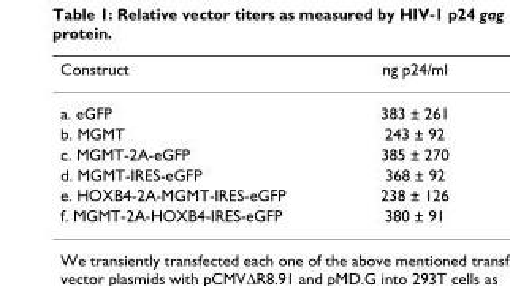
<table><thead><tr><td>Construct</td><td>ng p24/ml</td></tr></thead><tbody><tr><td>a. eGFP</td><td>383 ± 261</td></tr><tr><td>b. MGMT</td><td>243 ± 92</td></tr><tr><td>c. MGMT-2A-eGFP</td><td>385 ± 270</td></tr><tr><td>d. MGMT-IRES-eGFP</td><td>368 ± 92</td></tr><tr><td>e. HOXB4-2A-MGMT-IRES-eGFP</td><td>238 ± 126</td></tr><tr><td>f. MGMT-2A-HOXB4-IRES-eGFP</td><td>380 ± 91</td></tr></tbody></table>